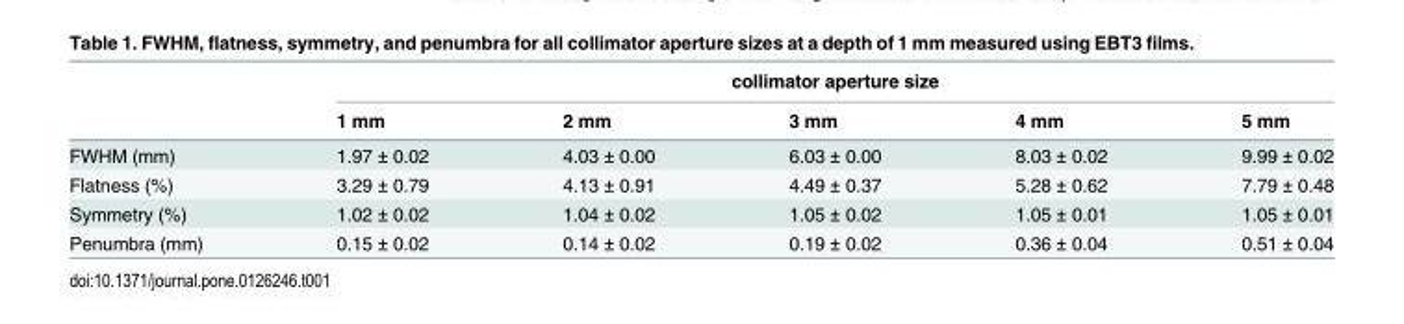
<table><thead><tr><td rowspan="2"></td><td colspan="5">collimator aperture size</td></tr><tr><td>1 mm</td><td>2 mm</td><td>3 mm</td><td>4 mm</td><td>5 mm</td></tr></thead><tbody><tr><td>FWHM (mm)</td><td>1.97 ± 0.02</td><td>4.03 ± 0.00</td><td>6.03 ± 0.00</td><td>8.03 ± 0.02</td><td>9.99 ± 0.02</td></tr><tr><td>Flatness (%)</td><td>3.29 ± 0.79</td><td>4.13 ± 0.91</td><td>4.49 ± 0.37</td><td>5.28 ± 0.62</td><td>7.79 ± 0.48</td></tr><tr><td>Symmetry (%)</td><td>1.02 ± 0.02</td><td>1.04 ± 0.02</td><td>1.05 ± 0.02</td><td>1.05 ± 0.01</td><td>1.05 ± 0.01</td></tr><tr><td>Penumbra (mm)</td><td>0.15 ± 0.02</td><td>0.14 ± 0.02</td><td>0.19 ± 0.02</td><td>0.36 ± 0.04</td><td>0.51 ± 0.04</td></tr></tbody></table>